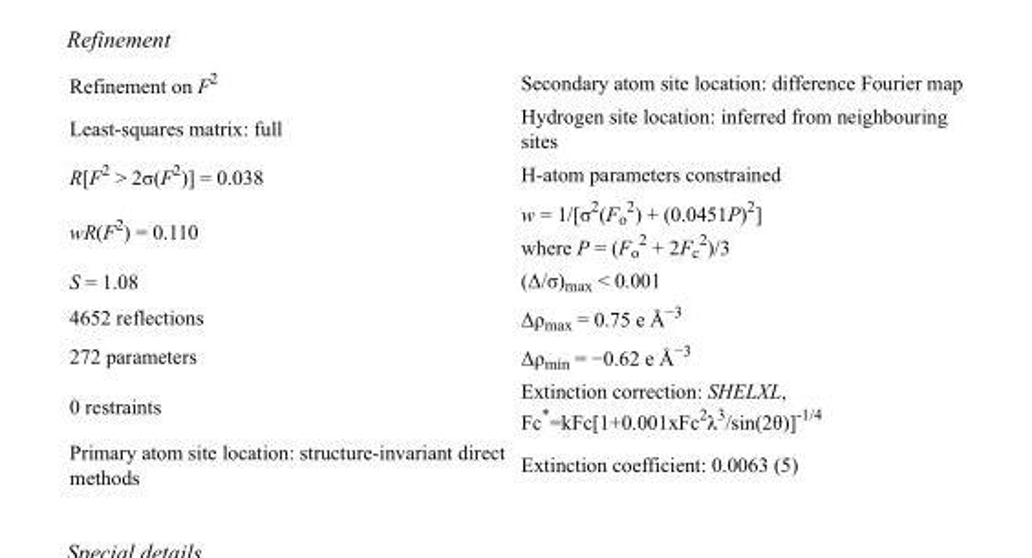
<table><tbody><tr><td>Refinement on F<sup>2</sup></td><td>Secondary atom site location: difference Fourier map</td></tr><tr><td>Least-squares matrix: full</td><td>Hydrogen site location: inferred from neighbouring sites</td></tr><tr><td>R[F<sup>2</sup> &gt; 2σ(F<sup>2</sup>)] = 0.038</td><td>H-atom parameters constrained</td></tr><tr><td>wR(F<sup>2</sup>) = 0.110</td><td>w = 1/[σ<sup>2</sup>(F<sub>o</sub> <sup>2</sup>) + (0.0451P)<sup>2</sup>] where P = (F<sub>o</sub> <sup>2</sup> + 2F<sub>c</sub> <sup>2</sup>)/3</td></tr><tr><td>S = 1.08</td><td>(Δ/σ)<sub>max</sub> &lt; 0.001</td></tr><tr><td>4652 reflections</td><td>Δρ<sub>max</sub> = 0.75 e Å<sup>−3</sup></td></tr><tr><td>272 parameters</td><td>Δρ<sub>min</sub> = −0.62 e Å<sup>−3</sup></td></tr><tr><td>0 restraints</td><td>Extinction correction: SHELXL, Fc*=kFc[1+0.001xFc<sup>2</sup>λ<sup>3</sup>/sin(2θ)]<sup>-1/4</sup></td></tr><tr><td>Primary atom site location: structure-invariant direct methods</td><td>Extinction coefficient: 0.0063 (5)</td></tr></tbody></table>